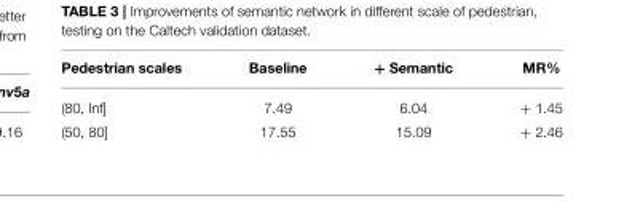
<table><thead><tr><td>Pedestrian scales</td><td>Baseline</td><td>+ Semantic</td><td>MR%</td></tr></thead><tbody><tr><td>(80, Inf]</td><td>7.49</td><td>6.04</td><td>+ 1.45</td></tr><tr><td>(50, 80]</td><td>17.55</td><td>15.09</td><td>+ 2.46</td></tr></tbody></table>